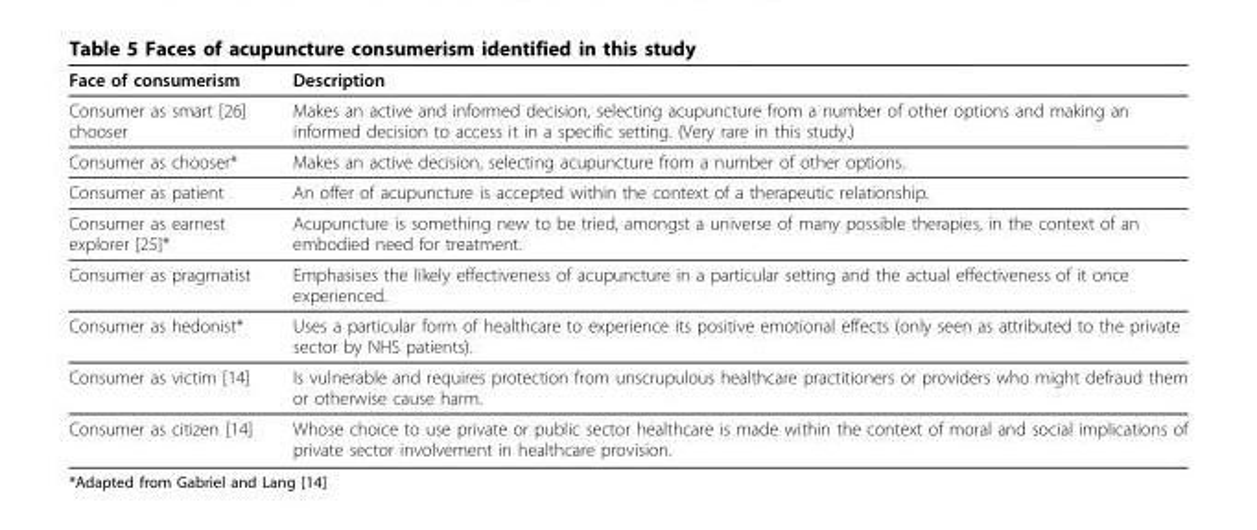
<table><thead><tr><td>Face of consumerism</td><td>Description</td></tr></thead><tbody><tr><td>Consumer as smart [26] chooser</td><td>Makes an active and informed decision, selecting acupuncture from a number of other options and making an informed decision to access it in a specific setting. (Very rare in this study.)</td></tr><tr><td>Consumer as chooser*</td><td>Makes an active decision, selecting acupuncture from a number of other options.</td></tr><tr><td>Consumer as patient</td><td>An offer of acupuncture is accepted within the context of a therapeutic relationship.</td></tr><tr><td>Consumer as earnest explorer [25]*</td><td>Acupuncture is something new to be tried, amongst a universe of many possible therapies, in the context of an embodied need for treatment.</td></tr><tr><td>Consumer as pragmatist</td><td>Emphasises the likely effectiveness of acupuncture in a particular setting and the actual effectiveness of it once experienced.</td></tr><tr><td>Consumer as hedonist*</td><td>Uses a particular form of healthcare to experience its positive emotional effects (only seen as attributed to the private sector by NHS patients).</td></tr><tr><td>Consumer as victim [14]</td><td>Is vulnerable and requires protection from unscrupulous healthcare practitioners or providers who might defraud them or otherwise cause harm.</td></tr><tr><td>Consumer as citizen [14]</td><td>Whose choice to use private or public sector healthcare is made within the context of moral and social implications of private sector involvement in healthcare provision.</td></tr></tbody></table>